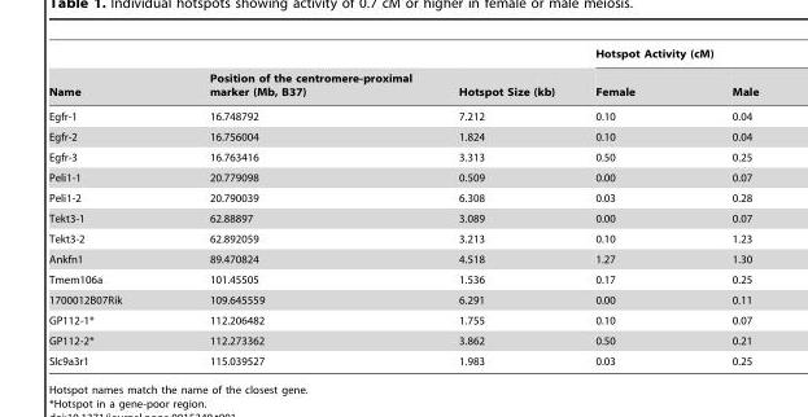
<table><thead><tr><td rowspan="2">Name</td><td rowspan="2">Position of the centromere-proximal marker (Mb, B37)</td><td rowspan="2">Hotspot Size (kb)</td><td colspan="2">Hotspot Activity (cM)</td></tr><tr><td>Female</td><td>Male</td></tr></thead><tbody><tr><td>Egfr-1</td><td>16.748792</td><td>7.212</td><td>0.10</td><td>0.04</td></tr><tr><td>Egfr-2</td><td>16.756004</td><td>1.824</td><td>0.10</td><td>0.04</td></tr><tr><td>Egfr-3</td><td>16.763416</td><td>3.313</td><td>0.50</td><td>0.25</td></tr><tr><td>Peli1-1</td><td>20.779098</td><td>0.509</td><td>0.00</td><td>0.07</td></tr><tr><td>Peli1-2</td><td>20.790039</td><td>6.308</td><td>0.03</td><td>0.28</td></tr><tr><td>Tekt3-1</td><td>62.88897</td><td>3.089</td><td>0.00</td><td>0.07</td></tr><tr><td>Tekt3-2</td><td>62.892059</td><td>3.213</td><td>0.10</td><td>1.23</td></tr><tr><td>Ankfn1</td><td>89.470824</td><td>4.518</td><td>1.27</td><td>1.30</td></tr><tr><td>Tmem106a</td><td>101.45505</td><td>1.536</td><td>0.17</td><td>0.25</td></tr><tr><td>1700012B07Rik</td><td>109.645559</td><td>6.291</td><td>0.00</td><td>0.11</td></tr><tr><td>GP112-1*</td><td>112.206482</td><td>1.755</td><td>0.10</td><td>0.07</td></tr><tr><td>GP112-2*</td><td>112.273362</td><td>3.862</td><td>0.50</td><td>0.21</td></tr><tr><td>Slc9a3r1</td><td>115.039527</td><td>1.983</td><td>0.03</td><td>0.25</td></tr></tbody></table>